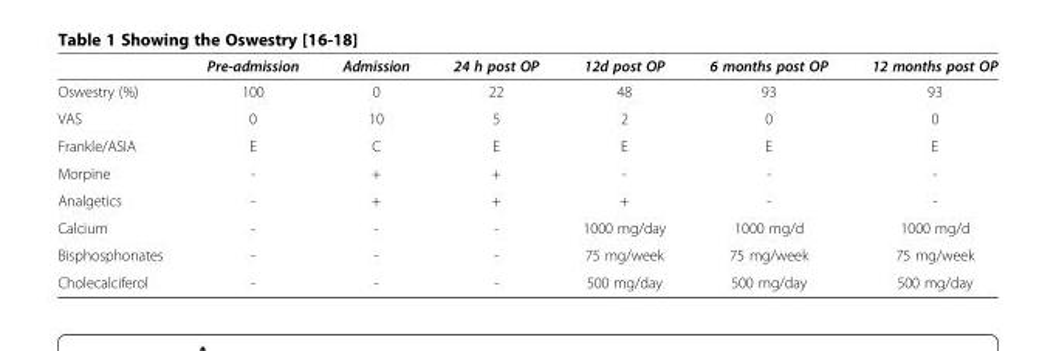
<table><thead><tr><td></td><td>Pre-admission</td><td>Admission</td><td>24 h post OP</td><td>12d post OP</td><td>6 months post OP</td><td>12 months post OP</td></tr></thead><tbody><tr><td>Oswestry (%)</td><td>100</td><td>0</td><td>22</td><td>48</td><td>93</td><td>93</td></tr><tr><td>VAS</td><td>0</td><td>10</td><td>5</td><td>2</td><td>0</td><td>0</td></tr><tr><td>Frankle/ASIA</td><td>E</td><td>C</td><td>E</td><td>E</td><td>E</td><td>E</td></tr><tr><td>Morpine</td><td>-</td><td>+</td><td>+</td><td>-</td><td>-</td><td>-</td></tr><tr><td>Analgetics</td><td>-</td><td>+</td><td>+</td><td>+</td><td>-</td><td>-</td></tr><tr><td>Calcium</td><td>-</td><td>-</td><td>-</td><td>1000 mg/day</td><td>1000 mg/d</td><td>1000 mg/d</td></tr><tr><td>Bisphosphonates</td><td>-</td><td>-</td><td>-</td><td>75 mg/week</td><td>75 mg/week</td><td>75 mg/week</td></tr><tr><td>Cholecalciferol</td><td>-</td><td>-</td><td>-</td><td>500 mg/day</td><td>500 mg/day</td><td>500 mg/day</td></tr></tbody></table>